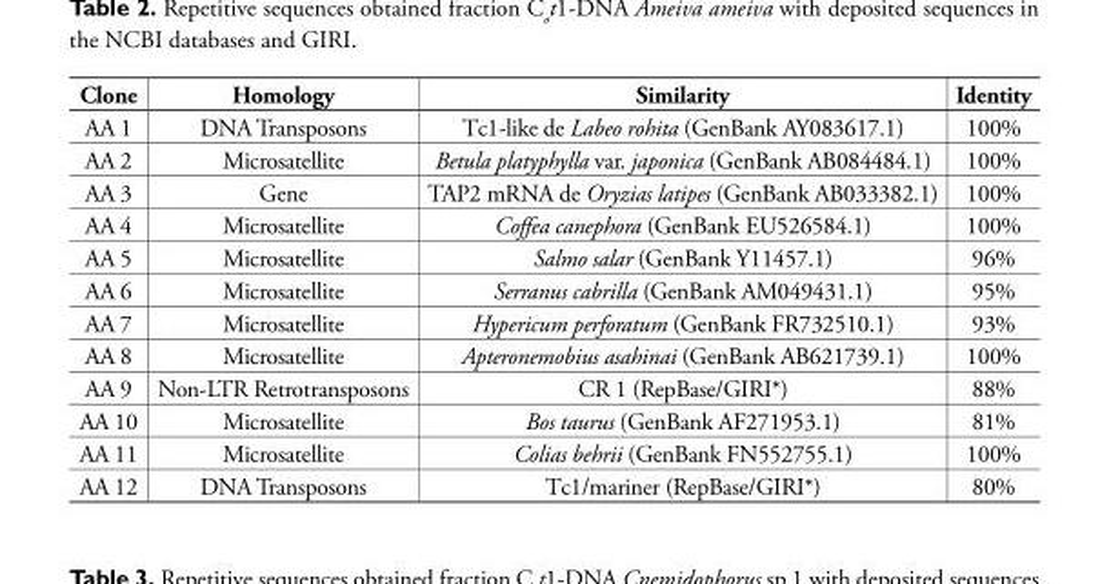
<table><thead><tr><td>Clone</td><td>Homology</td><td>Similarity</td><td>Identity</td></tr></thead><tbody><tr><td>AA 1</td><td>DNA Transposons</td><td>Tc1-like de Labeo rohita (GenBank AY083617.1)</td><td>100%</td></tr><tr><td>AA 2</td><td>Microsatellite</td><td>Betula platyphylla var. japonica (GenBank AB084484.1)</td><td>100%</td></tr><tr><td>AA 3</td><td>Gene</td><td>TAP2 mRNA de Oryzias latipes (GenBank AB033382.1)</td><td>100%</td></tr><tr><td>AA 4</td><td>Microsatellite</td><td>Coffea canephora (GenBank EU526584.1)</td><td>100%</td></tr><tr><td>AA 5</td><td>Microsatellite</td><td>Salmo salar (GenBank Y11457.1)</td><td>96%</td></tr><tr><td>AA 6</td><td>Microsatellite</td><td>Serranus cabrilla (GenBank AM049431.1)</td><td>95%</td></tr><tr><td>AA 7</td><td>Microsatellite</td><td>Hypericum perforatum (GenBank FR732510.1)</td><td>93%</td></tr><tr><td>AA 8</td><td>Microsatellite</td><td>Apteronemobius asahinai (GenBank AB621739.1)</td><td>100%</td></tr><tr><td>AA 9</td><td>Non-LTR Retrotransposons</td><td>CR 1 (RepBase/GIRI*)</td><td>88%</td></tr><tr><td>AA 10</td><td>Microsatellite</td><td>Bos taurus (GenBank AF271953.1)</td><td>81%</td></tr><tr><td>AA 11</td><td>Microsatellite</td><td>Colias behrii (GenBank FN552755.1)</td><td>100%</td></tr><tr><td>AA 12</td><td>DNA Transposons</td><td>Tc1/mariner (RepBase/GIRI*)</td><td>80%</td></tr></tbody></table>